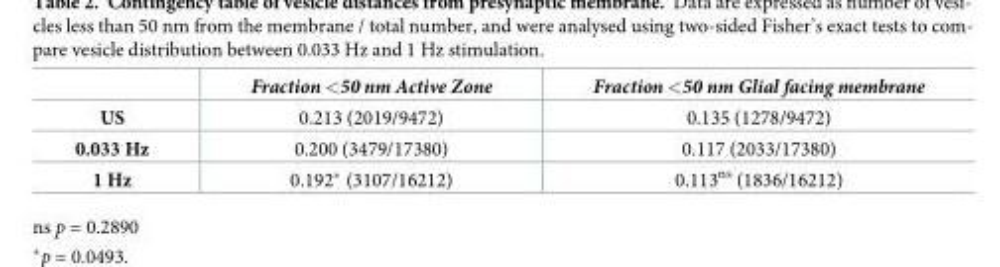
<table><thead><tr><td></td><td>Fraction &lt;50 nm Active Zone</td><td>Fraction &lt;50 nm Glial facing membrane</td></tr></thead><tbody><tr><td>US</td><td>0.213 (2019/9472)</td><td>0.135 (1278/9472)</td></tr><tr><td>0.033 Hz</td><td>0.200 (3479/17380)</td><td>0.117 (2033/17380)</td></tr><tr><td>1 Hz</td><td>0.192* (3107/16212)</td><td>0.113<sup>ns</sup> (1836/16212)</td></tr></tbody></table>